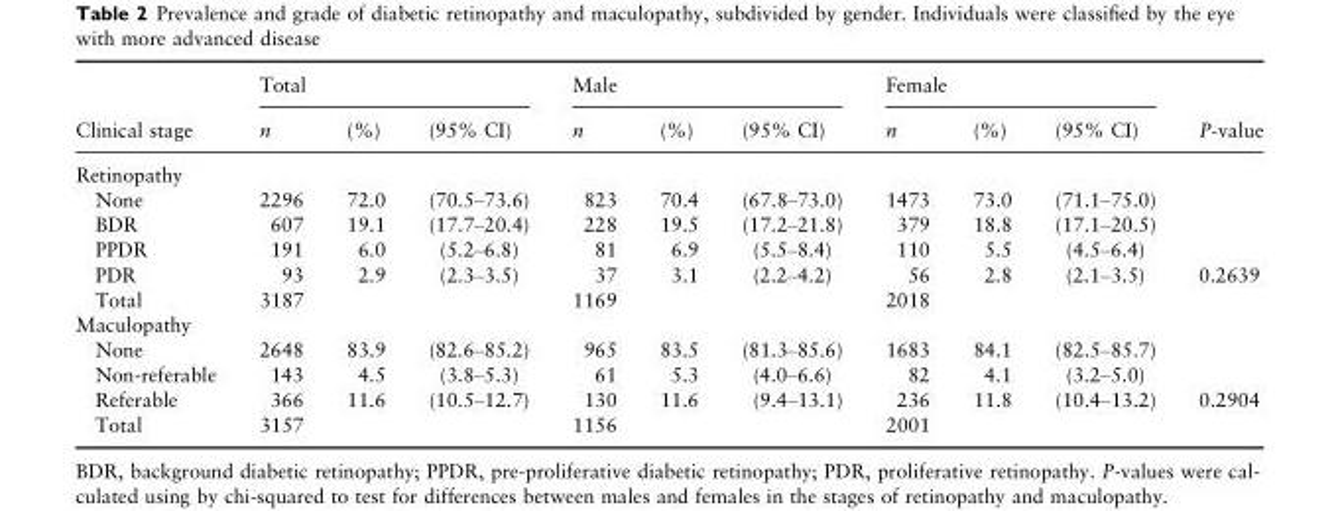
<table><thead><tr><td rowspan="2">Clinical stage</td><td colspan="3">Total</td><td colspan="3">Male</td><td colspan="3">Female</td><td rowspan="2">P-value</td></tr><tr><td>n</td><td>(%)</td><td>(95% CI)</td><td>n</td><td>(%)</td><td>(95% CI)</td><td>n</td><td>(%)</td><td>(95% CI)</td></tr></thead><tbody><tr><td colspan="11">Retinopathy</td></tr><tr><td>None</td><td>2296</td><td>72.0</td><td>(70.5–73.6)</td><td>823</td><td>70.4</td><td>(67.8–73.0)</td><td>1473</td><td>73.0</td><td>(71.1–75.0)</td><td></td></tr><tr><td>BDR</td><td>607</td><td>19.1</td><td>(17.7–20.4)</td><td>228</td><td>19.5</td><td>(17.2–21.8)</td><td>379</td><td>18.8</td><td>(17.1–20.5)</td><td></td></tr><tr><td>PPDR</td><td>191</td><td>6.0</td><td>(5.2–6.8)</td><td>81</td><td>6.9</td><td>(5.5–8.4)</td><td>110</td><td>5.5</td><td>(4.5–6.4)</td><td></td></tr><tr><td>PDR</td><td>93</td><td>2.9</td><td>(2.3–3.5)</td><td>37</td><td>3.1</td><td>(2.2–4.2)</td><td>56</td><td>2.8</td><td>(2.1–3.5)</td><td>0.2639</td></tr><tr><td>Total</td><td>3187</td><td></td><td></td><td>1169</td><td></td><td></td><td>2018</td><td></td><td></td><td></td></tr><tr><td colspan="11">Maculopathy</td></tr><tr><td>None</td><td>2648</td><td>83.9</td><td>(82.6–85.2)</td><td>965</td><td>83.5</td><td>(81.3–85.6)</td><td>1683</td><td>84.1</td><td>(82.5–85.7)</td><td></td></tr><tr><td>Non-referable</td><td>143</td><td>4.5</td><td>(3.8–5.3)</td><td>61</td><td>5.3</td><td>(4.0–6.6)</td><td>82</td><td>4.1</td><td>(3.2–5.0)</td><td></td></tr><tr><td>Referable</td><td>366</td><td>11.6</td><td>(10.5–12.7)</td><td>130</td><td>11.6</td><td>(9.4–13.1)</td><td>236</td><td>11.8</td><td>(10.4–13.2)</td><td>0.2904</td></tr><tr><td>Total</td><td>3157</td><td></td><td></td><td>1156</td><td></td><td></td><td>2001</td><td></td><td></td><td></td></tr></tbody></table>